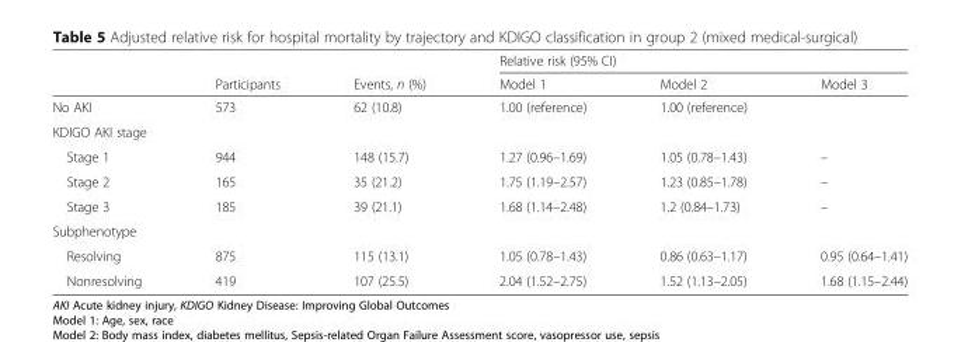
<table><thead><tr><td rowspan="2"></td><td rowspan="2">Participants</td><td rowspan="2">Events, n (%)</td><td colspan="3">Relative risk (95% CI)</td></tr><tr><td>Model 1</td><td>Model 2</td><td>Model 3</td></tr></thead><tbody><tr><td>No AKI</td><td>573</td><td>62 (10.8)</td><td>1.00 (reference)</td><td>1.00 (reference)</td><td></td></tr><tr><td colspan="6">KDIGO AKI stage</td></tr><tr><td>Stage 1</td><td>944</td><td>148 (15.7)</td><td>1.27 (0.96–1.69)</td><td>1.05 (0.78–1.43)</td><td>–</td></tr><tr><td>Stage 2</td><td>165</td><td>35 (21.2)</td><td>1.75 (1.19–2.57)</td><td>1.23 (0.85–1.78)</td><td>–</td></tr><tr><td>Stage 3</td><td>185</td><td>39 (21.1)</td><td>1.68 (1.14–2.48)</td><td>1.2 (0.84–1.73)</td><td>–</td></tr><tr><td colspan="6">Subphenotype</td></tr><tr><td>Resolving</td><td>875</td><td>115 (13.1)</td><td>1.05 (0.78–1.43)</td><td>0.86 (0.63–1.17)</td><td>0.95 (0.64–1.41)</td></tr><tr><td>Nonresolving</td><td>419</td><td>107 (25.5)</td><td>2.04 (1.52–2.75)</td><td>1.52 (1.13–2.05)</td><td>1.68 (1.15–2.44)</td></tr></tbody></table>